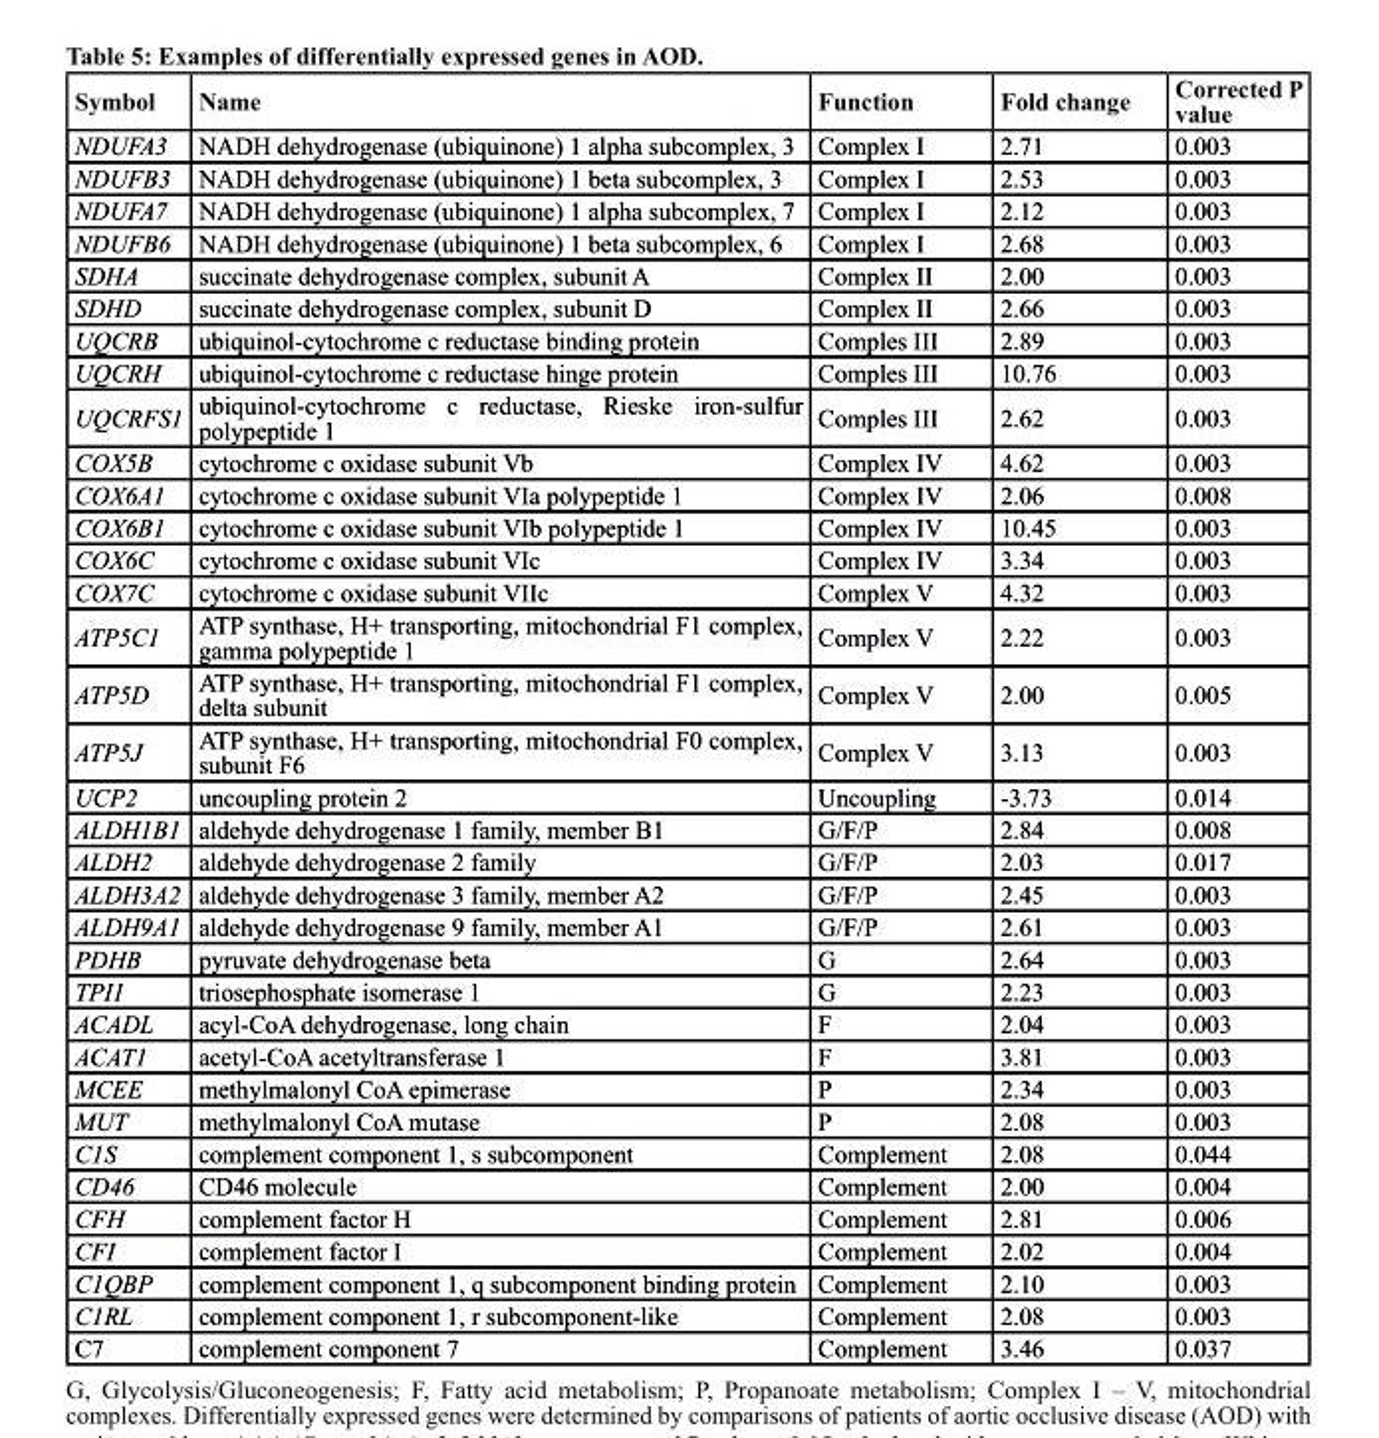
<table><thead><tr><td>symbol</td><td>name</td><td>Function</td><td>Fold change</td><td>corrected P value</td></tr></thead><tbody><tr><td>NDUFA3</td><td>NADH dehydrogenase (ubiquinone) 1 alpha subcomplex, 3</td><td>Complex I</td><td>2.71</td><td>0.003</td></tr><tr><td>NDUFB3</td><td>NADH dehydrogenase (ubiquinone) 1 beta subcomplex, 3</td><td>Complex I</td><td>2.53</td><td>0.003</td></tr><tr><td>NDUFA7</td><td>NADH dehydrogenase (ubiquinone) 1 alpha subcomplex, 7</td><td>Complex I</td><td>2.12</td><td>0.003</td></tr><tr><td>NDUFB6</td><td>NADH dehydrogenase (ubiquinone) 1 beta subcomplex, 6</td><td>Complex I</td><td>2.68</td><td>0.003</td></tr><tr><td>SDHA</td><td>succinate dehydrogenase complex, subunit A</td><td>Complex II</td><td>2.00</td><td>0.003</td></tr><tr><td>SDHD</td><td>succinate dehydrogenase complex, subunit D</td><td>Complex II</td><td>2.66</td><td>0.003</td></tr><tr><td>UQCRB</td><td>ubiquinol-cytochrome c reductase binding protein</td><td>Comples III</td><td>2.89</td><td>0.003</td></tr><tr><td>UQCRH</td><td>ubiquinol-cytochrome c reductase hinge protein</td><td>Comples III</td><td>10.76</td><td>0.003</td></tr><tr><td>UQCRFS1</td><td>ubiquinol-cytochrome c reductase, Rieske iron-sulfur polypeptide 1</td><td>Comples III</td><td>2.62</td><td>0.003</td></tr><tr><td>COX5B</td><td>cytochrome c oxidase subunit Vb</td><td>Complex IV</td><td>4.62</td><td>0.003</td></tr><tr><td>COX6A1</td><td>cytochrome c oxidase subunit VIa polypeptide 1</td><td>Complex IV</td><td>2.06</td><td>0.008</td></tr><tr><td>COX6B1</td><td>cytochrome c oxidase subunit VIb polypeptide 1</td><td>Complex IV</td><td>10.45</td><td>0.003</td></tr><tr><td>COX6C</td><td>cytochrome c oxidase subunit VIc</td><td>Complex IV</td><td>3.34</td><td>0.003</td></tr><tr><td>COX7C</td><td>cytochrome c oxidase subunit VIIc</td><td>Complex V</td><td>4.32</td><td>0.003</td></tr><tr><td>ATP5C1</td><td>ATP synthase, H+ transporting, mitochondrial F1 complex, gamma polypeptide 1</td><td>Complex V</td><td>2.22</td><td>0.003</td></tr><tr><td>ATP5D</td><td>ATP synthase, H+ transporting, mitochondrial F1 complex, delta subunit</td><td>Complex V</td><td>2.00</td><td>0.005</td></tr><tr><td>ATP5J</td><td>ATP synthase, H+ transporting, mitochondrial F0 complex, subunit F6</td><td>Complex V</td><td>3.13</td><td>0.003</td></tr><tr><td>UCP2</td><td>uncoupling protein 2</td><td>Uncoupling</td><td>-3.73</td><td>0.014</td></tr><tr><td>ALDH1B1</td><td>aldehyde dehydrogenase 1 family, member B1</td><td>G/F/P</td><td>2.84</td><td>0.008</td></tr><tr><td>ALDH2</td><td>aldehyde dehydrogenase 2 family</td><td>G/F/P</td><td>2.03</td><td>0.017</td></tr><tr><td>ALDH3A2</td><td>aldehyde dehydrogenase 3 family, member A2</td><td>G/F/P</td><td>2.45</td><td>0.003</td></tr><tr><td>ALDH9A1</td><td>aldehyde dehydrogenase 9 family, member A1</td><td>G/F/P</td><td>2.61</td><td>0.003</td></tr><tr><td>PDHB</td><td>pyruvate dehydrogenase beta</td><td>G</td><td>2.64</td><td>0.003</td></tr><tr><td>TPI1</td><td>triosephosphate isomerase 1</td><td>G</td><td>2.23</td><td>0.003</td></tr><tr><td>ACADL</td><td>acyl-CoA dehydrogenase, long chain</td><td>F</td><td>2.04</td><td>0.003</td></tr><tr><td>ACAT1</td><td>acetyl-CoA acetyltransferase 1</td><td>F</td><td>3.81</td><td>0.003</td></tr><tr><td>MCEE</td><td>methylmalonyl CoA epimerase</td><td>P</td><td>2.34</td><td>0.003</td></tr><tr><td>MUT</td><td>methylmalonyl CoA mutase</td><td>P</td><td>2.08</td><td>0.003</td></tr><tr><td>C1S</td><td>complement component 1, s subcomponent</td><td>Complement</td><td>2.08</td><td>0.044</td></tr><tr><td>CD46</td><td>CD46 molecule</td><td>Complement</td><td>2.00</td><td>0.004</td></tr><tr><td>CFH</td><td>complement factor H</td><td>Complement</td><td>2.81</td><td>0.006</td></tr><tr><td>CFI</td><td>complement factor I</td><td>Complement</td><td>2.02</td><td>0.004</td></tr><tr><td>C1QBP</td><td>complement component 1, q subcomponent binding protein</td><td>Complement</td><td>2.10</td><td>0.003</td></tr><tr><td>C1RL</td><td>complement component 1, r subcomponent-like</td><td>Complement</td><td>2.08</td><td>0.003</td></tr><tr><td>C7</td><td>complement component 7</td><td>Complement</td><td>3.46</td><td>0.037</td></tr></tbody></table>